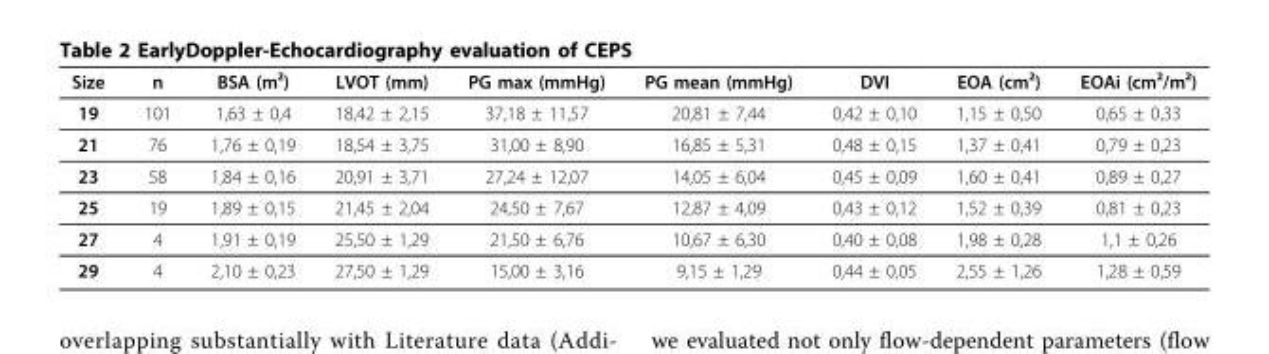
<table><thead><tr><td>Size</td><td>n</td><td>BSA (m²)</td><td>LVOT (mm)</td><td>PG max (mmHg)</td><td>PG mean (mmHg)</td><td>DVI</td><td>EOA (cm²)</td><td>EOAi (cm²/m²)</td></tr></thead><tbody><tr><td>19</td><td>101</td><td>1,63 ± 0,4</td><td>18,42 ± 2,15</td><td>37,18 ± 11,57</td><td>20,81 ± 7,44</td><td>0,42 ± 0,10</td><td>1,15 ± 0,50</td><td>0,65 ± 0,33</td></tr><tr><td>21</td><td>76</td><td>1,76 ± 0,19</td><td>18,54 ± 3,75</td><td>31,00 ± 8,90</td><td>16,85 ± 5,31</td><td>0,48 ± 0,15</td><td>1,37 ± 0,41</td><td>0,79 ± 0,23</td></tr><tr><td>23</td><td>58</td><td>1,84 ± 0,16</td><td>20,91 ± 3,71</td><td>27,24 ± 12,07</td><td>14,05 ± 6,04</td><td>0,45 ± 0,09</td><td>1,60 ± 0,41</td><td>0,89 ± 0,27</td></tr><tr><td>25</td><td>19</td><td>1,89 ± 0,15</td><td>21,45 ± 2,04</td><td>24,50 ± 7,67</td><td>12,87 ± 4,09</td><td>0,43 ± 0,12</td><td>1,52 ± 0,39</td><td>0,81 ± 0,23</td></tr><tr><td>27</td><td>4</td><td>1,91 ± 0,19</td><td>25,50 ± 1,29</td><td>21,50 ± 6,76</td><td>10,67 ± 6,30</td><td>0,40 ± 0,08</td><td>1,98 ± 0,28</td><td>1,1 ± 0,26</td></tr><tr><td>29</td><td>4</td><td>2,10 ± 0,23</td><td>27,50 ± 1,29</td><td>15,00 ± 3,16</td><td>9,15 ± 1,29</td><td>0,44 ± 0,05</td><td>2,55 ± 1,26</td><td>1,28 ± 0,59</td></tr></tbody></table>